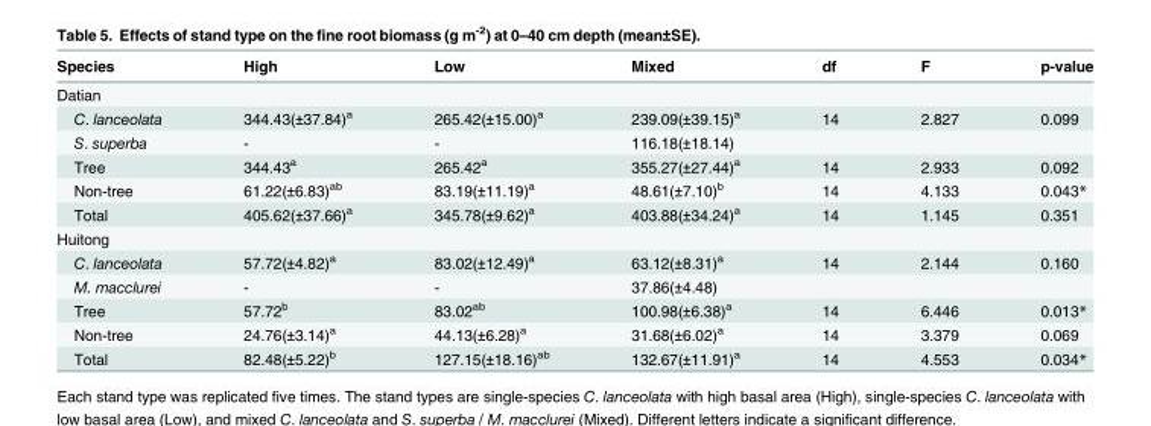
<table><thead><tr><td>Species</td><td>High</td><td>Low</td><td>Mixed</td><td>df</td><td>F</td><td>p-value</td></tr></thead><tbody><tr><td colspan="7">Datian</td></tr><tr><td>C. lanceolata</td><td>344.43(±37.84)<sup>a</sup></td><td>265.42(±15.00)<sup>a</sup></td><td>239.09(±39.15)<sup>a</sup></td><td>14</td><td>2.827</td><td>0.099</td></tr><tr><td>S. superba</td><td>-</td><td>-</td><td>116.18(±18.14)</td><td></td><td></td><td></td></tr><tr><td>Tree</td><td>344.43<sup>a</sup></td><td>265.42<sup>a</sup></td><td>355.27(±27.44)<sup>a</sup></td><td>14</td><td>2.933</td><td>0.092</td></tr><tr><td>Non-tree</td><td>61.22(±6.83)<sup>ab</sup></td><td>83.19(±11.19)<sup>a</sup></td><td>48.61(±7.10)<sup>b</sup></td><td>14</td><td>4.133</td><td>0.043*</td></tr><tr><td>Total</td><td>405.62(±37.66)<sup>a</sup></td><td>345.78(±9.62)<sup>a</sup></td><td>403.88(±34.24)<sup>a</sup></td><td>14</td><td>1.145</td><td>0.351</td></tr><tr><td colspan="7">Huitong</td></tr><tr><td>C. lanceolata</td><td>57.72(±4.82)<sup>a</sup></td><td>83.02(±12.49)<sup>a</sup></td><td>63.12(±8.31)<sup>a</sup></td><td>14</td><td>2.144</td><td>0.160</td></tr><tr><td>M. macclurei</td><td>-</td><td>-</td><td>37.86(±4.48)</td><td></td><td></td><td></td></tr><tr><td>Tree</td><td>57.72<sup>b</sup></td><td>83.02<sup>ab</sup></td><td>100.98(±6.38)<sup>a</sup></td><td>14</td><td>6.446</td><td>0.013*</td></tr><tr><td>Non-tree</td><td>24.76(±3.14)<sup>a</sup></td><td>44.13(±6.28)<sup>a</sup></td><td>31.68(±6.02)<sup>a</sup></td><td>14</td><td>3.379</td><td>0.069</td></tr><tr><td>Total</td><td>82.48(±5.22)<sup>b</sup></td><td>127.15(±18.16)<sup>ab</sup></td><td>132.67(±11.91)<sup>a</sup></td><td>14</td><td>4.553</td><td>0.034*</td></tr></tbody></table>